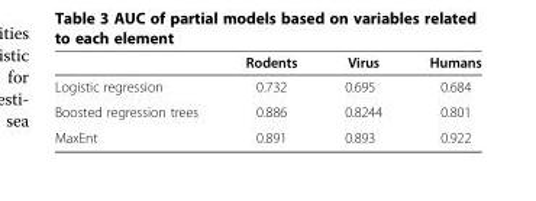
<table><thead><tr><td></td><td>Rodents</td><td>Virus</td><td>Humans</td></tr></thead><tbody><tr><td>Logistic regression</td><td>0.732</td><td>0.695</td><td>0.684</td></tr><tr><td>Boosted regression trees</td><td>0.886</td><td>0.8244</td><td>0.801</td></tr><tr><td>MaxEnt</td><td>0.891</td><td>0.893</td><td>0.922</td></tr></tbody></table>